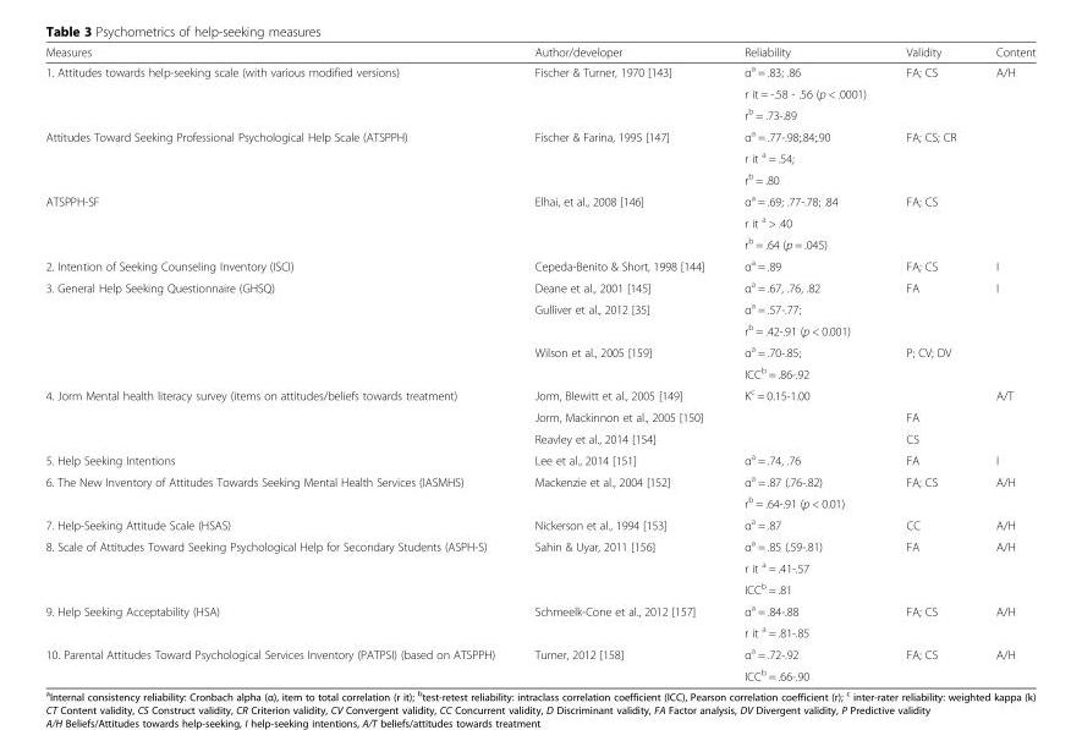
<table><thead><tr><td>Measures</td><td>Author/developer</td><td>Reliability</td><td>Validity</td><td>Content</td></tr></thead><tbody><tr><td rowspan="3">1. Attitudes towards help-seeking scale (with various modified versions)</td><td rowspan="3">Fischer &amp; Turner, 1970 [143]</td><td>α<sup>a</sup> = .83; .86</td><td rowspan="3">FA; CS</td><td rowspan="9">A/H</td></tr><tr><td>r it = -.58 - .56 (p &lt; .0001)</td></tr><tr><td>r<sup>b</sup> = .73-.89</td></tr><tr><td rowspan="3">Attitudes Toward Seeking Professional Psychological Help Scale (ATSPPH)</td><td rowspan="3">Fischer &amp; Farina, 1995 [147]</td><td>α<sup>a</sup> = .77-.98;.84;.90</td><td rowspan="3">FA; CS; CR</td></tr><tr><td>r it <sup>a</sup> = .54;</td></tr><tr><td>r<sup>b</sup> = .80</td></tr><tr><td rowspan="3">ATSPPH-SF</td><td rowspan="3">Elhai, et al., 2008 [146]</td><td>α<sup>a</sup> = .69; .77-.78; .84</td><td rowspan="3">FA; CS</td></tr><tr><td>r it <sup>a</sup> &gt; .40</td></tr><tr><td>r<sup>b</sup> = .64 (p = .045)</td></tr><tr><td>2. Intention of Seeking Counseling Inventory (ISCI)</td><td>Cepeda-Benito &amp; Short, 1998 [144]</td><td>α<sup>a</sup> = .89</td><td>FA; CS</td><td>I</td></tr><tr><td rowspan="5">3. General Help Seeking Questionnaire (GHSQ)</td><td>Deane et al., 2001 [145]</td><td>α<sup>a</sup> = .67, .76, .82</td><td>FA</td><td rowspan="5">I</td></tr><tr><td rowspan="2">Gulliver et al., 2012 [35]</td><td>α<sup>a</sup> = .57-.77;</td><td rowspan="2"></td></tr><tr><td>r<sup>b</sup> = .42-.91 (p &lt; 0.001)</td></tr><tr><td rowspan="2">Wilson et al., 2005 [159]</td><td>α<sup>a</sup> = .70-.85;</td><td rowspan="2">P; CV; DV</td></tr><tr><td>ICC<sup>b</sup> = .86-.92</td></tr><tr><td rowspan="3">4. Jorm Mental health literacy survey (items on attitudes/beliefs towards treatment)</td><td>Jorm, Blewitt et al., 2005 [149]</td><td>K<sup>c</sup> = 0.15-1.00</td><td></td><td rowspan="3">A/T</td></tr><tr><td>Jorm, Mackinnon et al., 2005 [150]</td><td></td><td>FA</td></tr><tr><td>Reavley et al., 2014 [154]</td><td></td><td>CS</td></tr><tr><td>5. Help Seeking Intentions</td><td>Lee et al., 2014 [151]</td><td>α<sup>a</sup> = .74, .76</td><td>FA</td><td>I</td></tr><tr><td rowspan="2">6. The New Inventory of Attitudes Towards Seeking Mental Health Services (IASMHS)</td><td rowspan="2">Mackenzie et al., 2004 [152]</td><td>α<sup>a</sup> = .87 (.76-.82)</td><td rowspan="2">FA; CS</td><td rowspan="2">A/H</td></tr><tr><td>r<sup>b</sup> = .64-.91 (p &lt; 0.01)</td></tr><tr><td>7. Help-Seeking Attitude Scale (HSAS)</td><td>Nickerson et al., 1994 [153]</td><td>α<sup>a</sup> = .87</td><td>CC</td><td>A/H</td></tr><tr><td rowspan="3">8. Scale of Attitudes Toward Seeking Psychological Help for Secondary Students (ASPH-S)</td><td rowspan="3">Sahin &amp; Uyar, 2011 [156]</td><td>α<sup>a</sup> = .85 (.59-.81)</td><td rowspan="3">FA</td><td rowspan="3">A/H</td></tr><tr><td>r it <sup>a</sup> = .41-.57</td></tr><tr><td>ICC<sup>b</sup> = .81</td></tr><tr><td rowspan="2">9. Help Seeking Acceptability (HSA)</td><td rowspan="2">Schmeelk-Cone et al., 2012 [157]</td><td>α<sup>a</sup> = .84-.88</td><td rowspan="2">FA; CS</td><td rowspan="2">A/H</td></tr><tr><td>r it <sup>a</sup> = .81-.85</td></tr><tr><td rowspan="2">10. Parental Attitudes Toward Psychological Services Inventory (PATPSI) (based on ATSPPH)</td><td rowspan="2">Turner, 2012 [158]</td><td>α<sup>a</sup> = .72-.92</td><td rowspan="2">FA; CS</td><td rowspan="2">A/H</td></tr><tr><td>ICC<sup>b</sup> = .66-.90</td></tr></tbody></table>